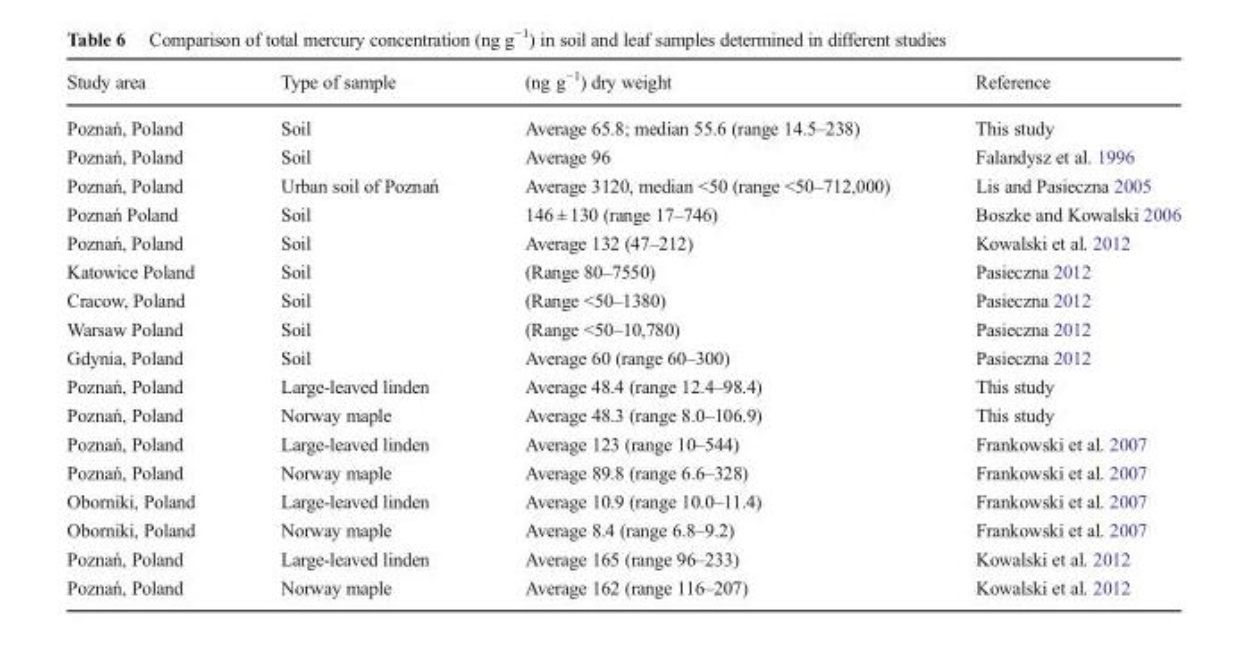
<table><thead><tr><td>Study area</td><td>Type of sample</td><td>(ng g<sup>−1</sup>) dry weight</td><td>Reference</td></tr></thead><tbody><tr><td>Poznań, Poland</td><td>Soil</td><td>Average 65.8; median 55.6 (range 14.5–238)</td><td>This study</td></tr><tr><td>Poznań, Poland</td><td>Soil</td><td>Average 96</td><td>Falandysz et al. 1996</td></tr><tr><td>Poznań, Poland</td><td>Urban soil of Poznań</td><td>Average 3120, median &lt;50 (range &lt;50–712,000)</td><td>Lis and Pasieczna 2005</td></tr><tr><td>Poznań Poland</td><td>Soil</td><td>146 ± 130 (range 17–746)</td><td>Boszke and Kowalski 2006</td></tr><tr><td>Poznań, Poland</td><td>Soil</td><td>Average 132 (47–212)</td><td>Kowalski et al. 2012</td></tr><tr><td>Katowice Poland</td><td>Soil</td><td>(Range 80–7550)</td><td>Pasieczna 2012</td></tr><tr><td>Cracow, Poland</td><td>Soil</td><td>(Range &lt;50–1380)</td><td>Pasieczna 2012</td></tr><tr><td>Warsaw Poland</td><td>Soil</td><td>(Range &lt;50–10,780)</td><td>Pasieczna 2012</td></tr><tr><td>Gdynia, Poland</td><td>Soil</td><td>Average 60 (range 60–300)</td><td>Pasieczna 2012</td></tr><tr><td>Poznań, Poland</td><td>Large-leaved linden</td><td>Average 48.4 (range 12.4–98.4)</td><td>This study</td></tr><tr><td>Poznań, Poland</td><td>Norway maple</td><td>Average 48.3 (range 8.0–106.9)</td><td>This study</td></tr><tr><td>Poznań, Poland</td><td>Large-leaved linden</td><td>Average 123 (range 10–544)</td><td>Frankowski et al. 2007</td></tr><tr><td>Poznań, Poland</td><td>Norway maple</td><td>Average 89.8 (range 6.6–328)</td><td>Frankowski et al. 2007</td></tr><tr><td>Oborniki, Poland</td><td>Large-leaved linden</td><td>Average 10.9 (range 10.0–11.4)</td><td>Frankowski et al. 2007</td></tr><tr><td>Oborniki, Poland</td><td>Norway maple</td><td>Average 8.4 (range 6.8–9.2)</td><td>Frankowski et al. 2007</td></tr><tr><td>Poznań, Poland</td><td>Large-leaved linden</td><td>Average 165 (range 96–233)</td><td>Kowalski et al. 2012</td></tr><tr><td>Poznań, Poland</td><td>Norway maple</td><td>Average 162 (range 116–207)</td><td>Kowalski et al. 2012</td></tr></tbody></table>